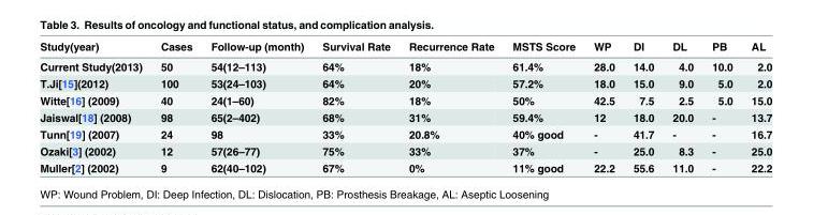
<table><thead><tr><td>Study(year)</td><td>Cases</td><td>Follow-up (month)</td><td>Survival Rate</td><td>Recurrence Rate</td><td>MSTS Score</td><td>WP</td><td>DI</td><td>DL</td><td>PB</td><td>AL</td></tr></thead><tbody><tr><td>Current Study(2013)</td><td>50</td><td>54(12–113)</td><td>64%</td><td>18%</td><td>61.4%</td><td>28.0</td><td>14.0</td><td>4.0</td><td>10.0</td><td>2.0</td></tr><tr><td>T.Ji[15](2012)</td><td>100</td><td>53(24–103)</td><td>64%</td><td>20%</td><td>57.2%</td><td>18.0</td><td>15.0</td><td>9.0</td><td>5.0</td><td>2.0</td></tr><tr><td>Witte[16] (2009)</td><td>40</td><td>24(1–60)</td><td>82%</td><td>18%</td><td>50%</td><td>42.5</td><td>7.5</td><td>2.5</td><td>5.0</td><td>15.0</td></tr><tr><td>Jaiswal[18] (2008)</td><td>98</td><td>65(2–402)</td><td>68%</td><td>31%</td><td>59.4%</td><td>12</td><td>18.0</td><td>20.0</td><td>-</td><td>13.7</td></tr><tr><td>Tunn[19] (2007)</td><td>24</td><td>98</td><td>33%</td><td>20.8%</td><td>40% good</td><td>-</td><td>41.7</td><td>-</td><td>-</td><td>16.7</td></tr><tr><td>Ozaki[3] (2002)</td><td>12</td><td>57(26–77)</td><td>75%</td><td>33%</td><td>37%</td><td>-</td><td>25.0</td><td>8.3</td><td>-</td><td>25.0</td></tr><tr><td>Muller[2] (2002)</td><td>9</td><td>62(40–102)</td><td>67%</td><td>0%</td><td>11% good</td><td>22.2</td><td>55.6</td><td>11.0</td><td>-</td><td>22.2</td></tr></tbody></table>